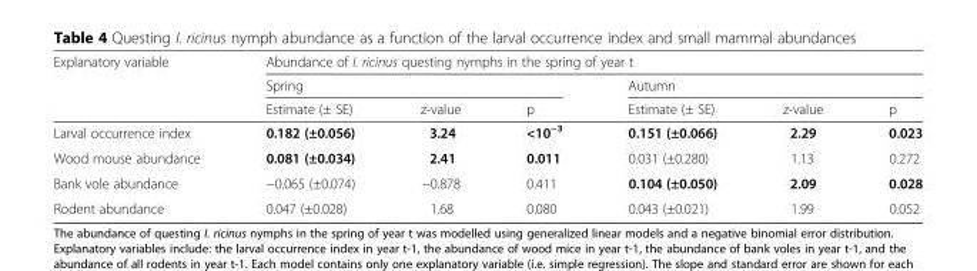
<table><thead><tr><td rowspan="3">Explanatory variable</td><td colspan="6">Abundance of I. ricinus questing nymphs in the spring of year t</td></tr><tr><td colspan="3">Spring</td><td colspan="3">Autumn</td></tr><tr><td>Estimate (± SE)</td><td>z-value</td><td>p</td><td>Estimate (± SE)</td><td>z-value</td><td>p</td></tr></thead><tbody><tr><td>Larval occurrence index</td><td>0.182 (±0.056)</td><td>3.24</td><td>&lt;10<sup>−3</sup></td><td>0.151 (±0.066)</td><td>2.29</td><td>0.023</td></tr><tr><td>Wood mouse abundance</td><td>0.081 (±0.034)</td><td>2.41</td><td>0.011</td><td>0.031 (±0.280)</td><td>1.13</td><td>0.272</td></tr><tr><td>Bank vole abundance</td><td>−0.065 (±0.074)</td><td>−0.878</td><td>0.411</td><td>0.104 (±0.050)</td><td>2.09</td><td>0.028</td></tr><tr><td>Rodent abundance</td><td>0.047 (±0.028)</td><td>1.68</td><td>0.080</td><td>0.043 (±0.021)</td><td>1.99</td><td>0.052</td></tr></tbody></table>